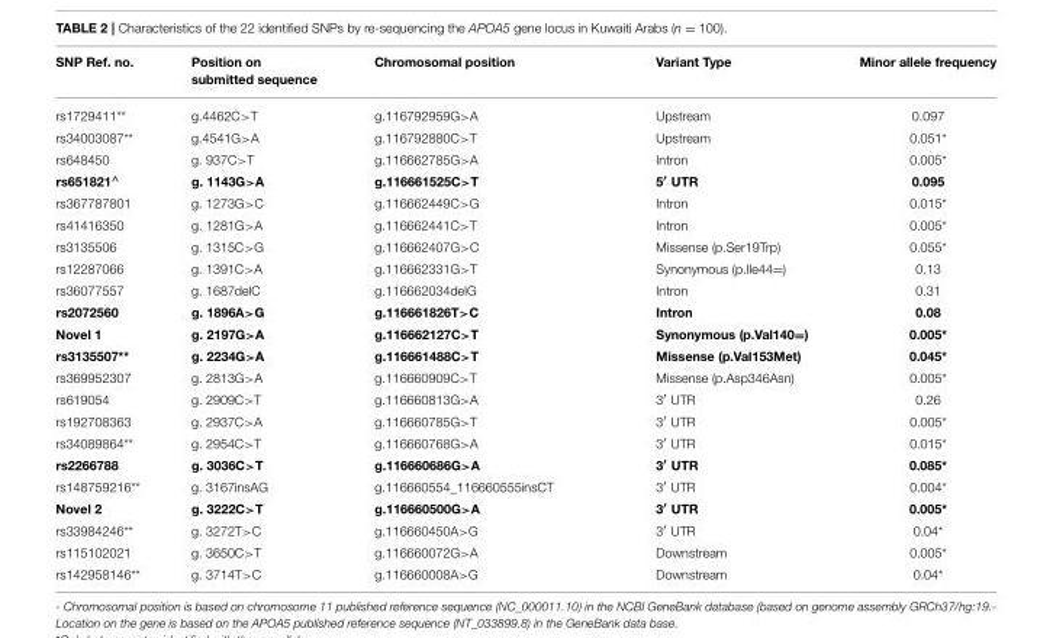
<table><thead><tr><td>SNP Ref. no.</td><td>Position on submitted sequence</td><td>Chromosomal position</td><td>Variant Type</td><td>Minor allele frequency</td></tr></thead><tbody><tr><td>rs1729411**</td><td>g.4462C&gt;T</td><td>g.116792959G&gt;A</td><td>Upstream</td><td>0.097</td></tr><tr><td>rs34003087**</td><td>g.4541G&gt;A</td><td>g.116792880C&gt;T</td><td>Upstream</td><td>0.051*</td></tr><tr><td>rs648450</td><td>g. 937C&gt;T</td><td>g.116662785G&gt;A</td><td>Intron</td><td>0.005*</td></tr><tr><td>rs651821<sup>∧</sup></td><td>g. 1143G&gt;A</td><td>g.116661525C&gt;T</td><td>5′ UTR</td><td>0.095</td></tr><tr><td>rs367787801</td><td>g. 1273G&gt;C</td><td>g.116662449C&gt;G</td><td>Intron</td><td>0.015*</td></tr><tr><td>rs41416350</td><td>g. 1281G&gt;A</td><td>g.116662441C&gt;T</td><td>Intron</td><td>0.005*</td></tr><tr><td>rs3135506</td><td>g. 1315C&gt;G</td><td>g.116662407G&gt;C</td><td>Missense (p.Ser19Trp)</td><td>0.055*</td></tr><tr><td>rs12287066</td><td>g. 1391C&gt;A</td><td>g.116662331G&gt;T</td><td>Synonymous (p.Ile44=)</td><td>0.13</td></tr><tr><td>rs36077557</td><td>g. 1687delC</td><td>g.116662034delG</td><td>Intron</td><td>0.31</td></tr><tr><td>rs2072560</td><td>g. 1896A&gt;G</td><td>g.116661826T&gt;C</td><td>Intron</td><td>0.08</td></tr><tr><td>Novel 1</td><td>g. 2197G&gt;A</td><td>g.116662127C&gt;T</td><td>Synonymous (p.Val140=)</td><td>0.005*</td></tr><tr><td>rs3135507**</td><td>g. 2234G&gt;A</td><td>g.116661488C&gt;T</td><td>Missense (p.Val153Met)</td><td>0.045*</td></tr><tr><td>rs369952307</td><td>g. 2813G&gt;A</td><td>g.116660909C&gt;T</td><td>Missense (p.Asp346Asn)</td><td>0.005*</td></tr><tr><td>rs619054</td><td>g. 2909C&gt;T</td><td>g.116660813G&gt;A</td><td>3′ UTR</td><td>0.26</td></tr><tr><td>rs192708363</td><td>g. 2937C&gt;A</td><td>g.116660785G&gt;T</td><td>3′ UTR</td><td>0.005*</td></tr><tr><td>rs34089864**</td><td>g. 2954C&gt;T</td><td>g.116660768G&gt;A</td><td>3′ UTR</td><td>0.015*</td></tr><tr><td>rs2266788</td><td>g. 3036C&gt;T</td><td>g.116660686G&gt;A</td><td>3′ UTR</td><td>0.085*</td></tr><tr><td>rs148759216**</td><td>g. 3167insAG</td><td>g.116660554_116660555insCT</td><td>3′ UTR</td><td>0.004*</td></tr><tr><td>Novel 2</td><td>g. 3222C&gt;T</td><td>g.116660500G&gt;A</td><td>3′ UTR</td><td>0.005*</td></tr><tr><td>rs33984246**</td><td>g. 3272T&gt;C</td><td>g.116660450A&gt;G</td><td>3′ UTR</td><td>0.04*</td></tr><tr><td>rs115102021</td><td>g. 3650C&gt;T</td><td>g.116660072G&gt;A</td><td>Downstream</td><td>0.005*</td></tr><tr><td>rs142958146**</td><td>g. 3714T&gt;C</td><td>g.116660008A&gt;G</td><td>Downstream</td><td>0.04*</td></tr></tbody></table>